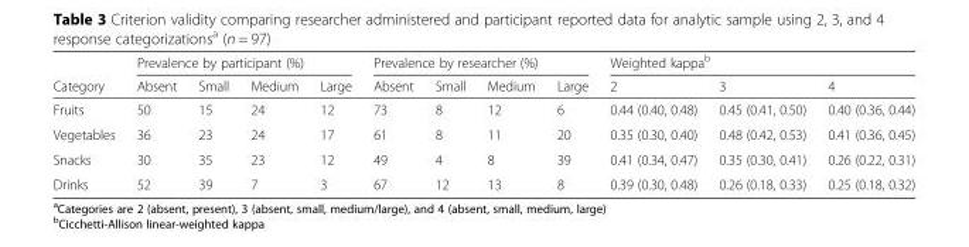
<table><thead><tr><td rowspan="2">Category</td><td colspan="4">Prevalence by participant (%)</td><td colspan="4">Prevalence by researcher (%)</td><td colspan="3">Weighted kappa<sup>b</sup></td></tr><tr><td>Absent</td><td>Small</td><td>Medium</td><td>Large</td><td>Absent</td><td>Small</td><td>Medium</td><td>Large</td><td>2</td><td>3</td><td>4</td></tr></thead><tbody><tr><td>Fruits</td><td>50</td><td>15</td><td>24</td><td>12</td><td>73</td><td>8</td><td>12</td><td>6</td><td>0.44 (0.40, 0.48)</td><td>0.45 (0.41, 0.50)</td><td>0.40 (0.36, 0.44)</td></tr><tr><td>Vegetables</td><td>36</td><td>23</td><td>24</td><td>17</td><td>61</td><td>8</td><td>11</td><td>20</td><td>0.35 (0.30, 0.40)</td><td>0.48 (0.42, 0.53)</td><td>0.41 (0.36, 0.45)</td></tr><tr><td>Snacks</td><td>30</td><td>35</td><td>23</td><td>12</td><td>49</td><td>4</td><td>8</td><td>39</td><td>0.41 (0.34, 0.47)</td><td>0.35 (0.30, 0.41)</td><td>0.26 (0.22, 0.31)</td></tr><tr><td>Drinks</td><td>52</td><td>39</td><td>7</td><td>3</td><td>67</td><td>12</td><td>13</td><td>8</td><td>0.39 (0.30, 0.48)</td><td>0.26 (0.18, 0.33)</td><td>0.25 (0.18, 0.32)</td></tr></tbody></table>